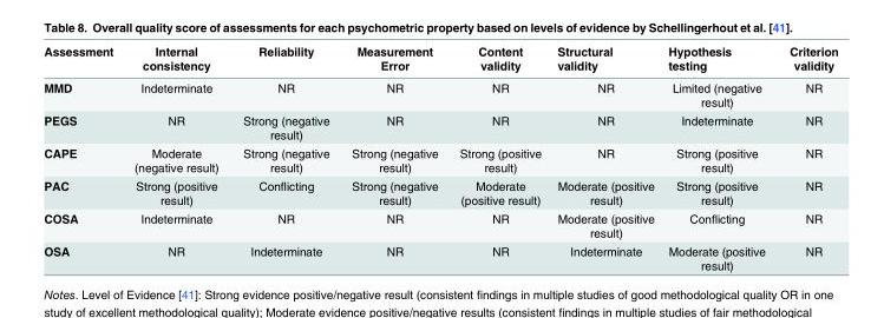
<table><thead><tr><td>Assessment</td><td>Internal consistency</td><td>Reliability</td><td>Measurement Error</td><td>Content validity</td><td>Structural validity</td><td>Hypothesis testing</td><td>Criterion validity</td></tr></thead><tbody><tr><td>MMD</td><td>Indeterminate</td><td>NR</td><td>NR</td><td>NR</td><td>NR</td><td>Limited (negative result)</td><td>NR</td></tr><tr><td>PEGS</td><td>NR</td><td>Strong (negative result)</td><td>NR</td><td>NR</td><td>NR</td><td>Indeterminate</td><td>NR</td></tr><tr><td>CAPE</td><td>Moderate (negative result)</td><td>Strong (negative result)</td><td>Strong (negative result)</td><td>Strong (positive result)</td><td>NR</td><td>Strong (positive result)</td><td>NR</td></tr><tr><td>PAC</td><td>Strong (positive result)</td><td>Conflicting</td><td>Strong (negative result)</td><td>Moderate (positive result)</td><td>Moderate (positive result)</td><td>Strong (positive result)</td><td>NR</td></tr><tr><td>COSA</td><td>Indeterminate</td><td>NR</td><td>NR</td><td>NR</td><td>Moderate (positive result)</td><td>Conflicting</td><td>NR</td></tr><tr><td>OSA</td><td>NR</td><td>Indeterminate</td><td>NR</td><td>NR</td><td>Indeterminate</td><td>Moderate (positive result)</td><td>NR</td></tr></tbody></table>